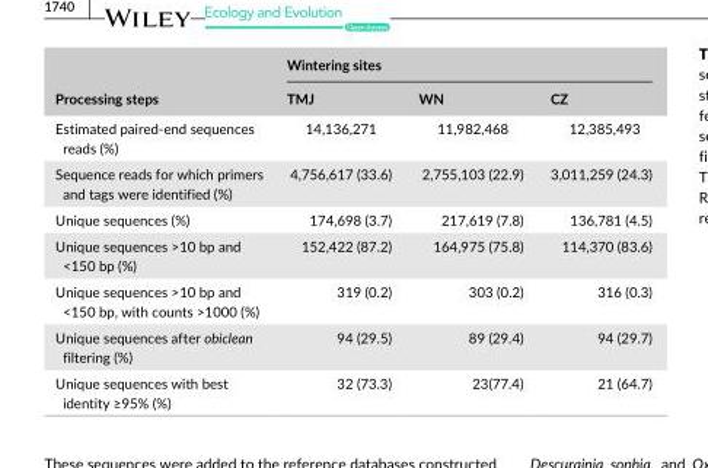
<table><thead><tr><td rowspan="2">Processing steps</td><td colspan="3">Wintering sites</td></tr><tr><td>TMJ</td><td>WN</td><td>CZ</td></tr></thead><tbody><tr><td>Estimated paired- end sequences reads (%)</td><td>14,136,271</td><td>11,982,468</td><td>12,385,493</td></tr><tr><td>Sequence reads for which primers and tags were identified (%)</td><td>4,756,617 (33.6)</td><td>2,755,103 (22.9)</td><td>3,011,259 (24.3)</td></tr><tr><td>Unique sequences (%)</td><td>174,698 (3.7)</td><td>217,619 (7.8)</td><td>136,781 (4.5)</td></tr><tr><td>Unique sequences &gt;10 bp and &lt;150 bp (%)</td><td>152,422 (87.2)</td><td>164,975 (75.8)</td><td>114,370 (83.6)</td></tr><tr><td>Unique sequences &gt;10 bp and &lt;150 bp, with counts &gt;1000 (%)</td><td>319 (0.2)</td><td>303 (0.2)</td><td>316 (0.3)</td></tr><tr><td>Unique sequences after obiclean filtering (%)</td><td>94 (29.5)</td><td>89 (29.4)</td><td>94 (29.7)</td></tr><tr><td>Unique sequences with best identity ≥95% (%)</td><td>32 (73.3)</td><td>23(77.4)</td><td>21 (64.7)</td></tr></tbody></table>